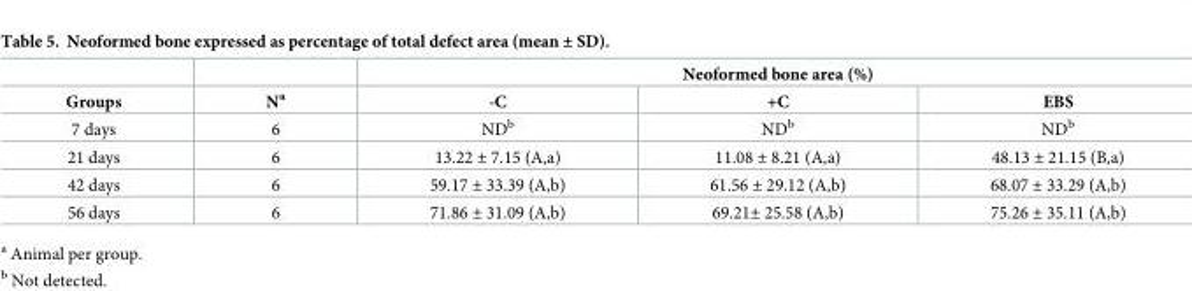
<table><thead><tr><td rowspan="2">Groups</td><td rowspan="2">N<sup>a</sup></td><td colspan="3">Neoformed bone area (%)</td></tr><tr><td>-C</td><td>+C</td><td>EBS</td></tr></thead><tbody><tr><td>7 days</td><td>6</td><td>ND<sup>b</sup></td><td>ND<sup>b</sup></td><td>ND<sup>b</sup></td></tr><tr><td>21 days</td><td>6</td><td>13.22 ± 7.15 (A,a)</td><td>11.08 ± 8.21 (A,a)</td><td>48.13 ± 21.15 (B,a)</td></tr><tr><td>42 days</td><td>6</td><td>59.17 ± 33.39 (A,b)</td><td>61.56 ± 29.12 (A,b)</td><td>68.07 ± 33.29 (A,b)</td></tr><tr><td>56 days</td><td>6</td><td>71.86 ± 31.09 (A,b)</td><td>69.21± 25.58 (A,b)</td><td>75.26 ± 35.11 (A,b)</td></tr></tbody></table>